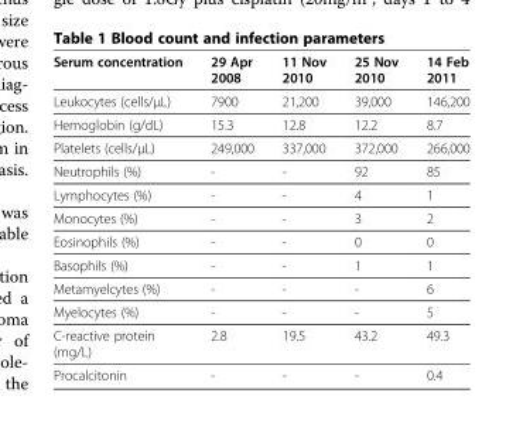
<table><thead><tr><td>Serum concentration</td><td>29 Apr 2008</td><td>11 Nov 2010</td><td>25 Nov 2010</td><td>14 Feb 2011</td></tr></thead><tbody><tr><td>Leukocytes (cells/μL)</td><td>7900</td><td>21,200</td><td>39,000</td><td>146,200</td></tr><tr><td>Hemoglobin (g/dL)</td><td>15.3</td><td>12.8</td><td>12.2</td><td>8.7</td></tr><tr><td>Platelets (cells/μL)</td><td>249,000</td><td>337,000</td><td>372,000</td><td>266,000</td></tr><tr><td>Neutrophils (%)</td><td>-</td><td>-</td><td>92</td><td>85</td></tr><tr><td>Lymphocytes (%)</td><td>-</td><td>-</td><td>4</td><td>1</td></tr><tr><td>Monocytes (%)</td><td>-</td><td>-</td><td>3</td><td>2</td></tr><tr><td>Eosinophils (%)</td><td>-</td><td>-</td><td>0</td><td>0</td></tr><tr><td>Basophils (%)</td><td>-</td><td>-</td><td>1</td><td>1</td></tr><tr><td>Metamyelcytes (%)</td><td>-</td><td>-</td><td>-</td><td>6</td></tr><tr><td>Myelocytes (%)</td><td>-</td><td>-</td><td>-</td><td>5</td></tr><tr><td>C-reactive protein (mg/L)</td><td>2.8</td><td>19.5</td><td>43.2</td><td>49.3</td></tr><tr><td>Procalcitonin</td><td>-</td><td>-</td><td>-</td><td>0.4</td></tr></tbody></table>